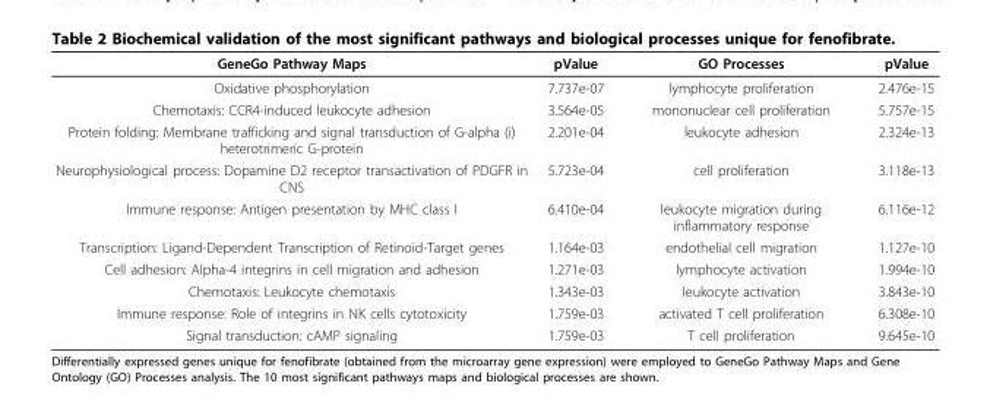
<table><thead><tr><td>GeneGo Pathway Maps</td><td>pValue</td><td>GO Processes</td><td>pValue</td></tr></thead><tbody><tr><td>Oxidative phosphorylation</td><td>7.737e-07</td><td>lymphocyte proliferation</td><td>2.476e-15</td></tr><tr><td>Chemotaxis: CCR4-induced leukocyte adhesion</td><td>3.564e-05</td><td>mononuclear cell proliferation</td><td>5.757e-15</td></tr><tr><td>Protein folding: Membrane trafficking and signal transduction of G-alpha (i) heterotrimeric G-protein</td><td>2.201e-04</td><td>leukocyte adhesion</td><td>2.324e-13</td></tr><tr><td>Neurophysiological process: Dopamine D2 receptor transactivation of PDGFR in CNS</td><td>5.723e-04</td><td>cell proliferation</td><td>3.118e-13</td></tr><tr><td>Immune response: Antigen presentation by MHC class I</td><td>6.410e-04</td><td>leukocyte migration during inflammatory response</td><td>6.116e-12</td></tr><tr><td>Transcription: Ligand-Dependent Transcription of Retinoid-Target genes</td><td>1.164e-03</td><td>endothelial cell migration</td><td>1.127e-10</td></tr><tr><td>Cell adhesion: Alpha-4 integrins in cell migration and adhesion</td><td>1.271e-03</td><td>lymphocyte activation</td><td>1.994e-10</td></tr><tr><td>Chemotaxis: Leukocyte chemotaxis</td><td>1.343e-03</td><td>leukocyte activation</td><td>3.843e-10</td></tr><tr><td>Immune response: Role of integrins in NK cells cytotoxicity</td><td>1.759e-03</td><td>activated T cell proliferation</td><td>6.308e-10</td></tr><tr><td>Signal transduction: cAMP signaling</td><td>1.759e-03</td><td>T cell proliferation</td><td>9.645e-10</td></tr></tbody></table>